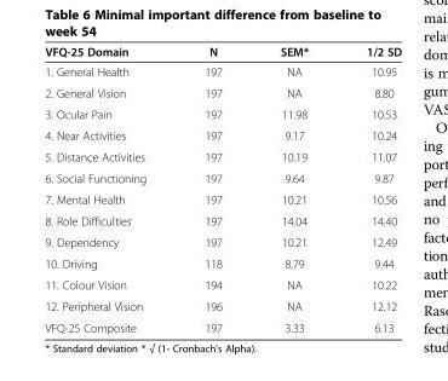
<table><thead><tr><td>VFQ-25 Domain</td><td>N</td><td>SEM*</td><td>1/2 SD</td></tr></thead><tbody><tr><td>1. General Health</td><td>197</td><td>NA</td><td>10.95</td></tr><tr><td>2. General Vision</td><td>197</td><td>NA</td><td>8.80</td></tr><tr><td>3. Ocular Pain</td><td>197</td><td>11.98</td><td>10.53</td></tr><tr><td>4. Near Activities</td><td>197</td><td>9.17</td><td>10.24</td></tr><tr><td>5. Distance Activities</td><td>197</td><td>10.19</td><td>11.07</td></tr><tr><td>6. Social Functioning</td><td>197</td><td>9.64</td><td>9.87</td></tr><tr><td>7. Mental Health</td><td>197</td><td>10.21</td><td>10.56</td></tr><tr><td>8. Role Difficulties</td><td>197</td><td>14.04</td><td>14.40</td></tr><tr><td>9. Dependency</td><td>197</td><td>10.21</td><td>12.49</td></tr><tr><td>10. Driving</td><td>118</td><td>8.79</td><td>9.44</td></tr><tr><td>11. Colour Vision</td><td>194</td><td>NA</td><td>10.22</td></tr><tr><td>12. Peripheral Vision</td><td>196</td><td>NA</td><td>12.12</td></tr><tr><td>VFQ-25 Composite</td><td>197</td><td>3.33</td><td>6.13</td></tr></tbody></table>